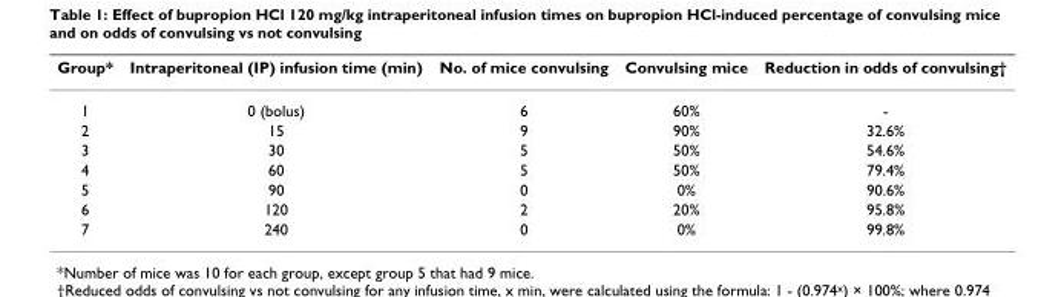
<table><thead><tr><td>Group*</td><td>Intraperitoneal (IP) infusion time (min)</td><td>No. of mice convulsing</td><td>Convulsing mice</td><td>Reduction in odds of convulsing†</td></tr></thead><tbody><tr><td>1</td><td>0 (bolus)</td><td>6</td><td>60%</td><td>-</td></tr><tr><td>2</td><td>15</td><td>9</td><td>90%</td><td>32.6%</td></tr><tr><td>3</td><td>30</td><td>5</td><td>50%</td><td>54.6%</td></tr><tr><td>4</td><td>60</td><td>5</td><td>50%</td><td>79.4%</td></tr><tr><td>5</td><td>90</td><td>0</td><td>0%</td><td>90.6%</td></tr><tr><td>6</td><td>120</td><td>2</td><td>20%</td><td>95.8%</td></tr><tr><td>7</td><td>240</td><td>0</td><td>0%</td><td>99.8%</td></tr></tbody></table>